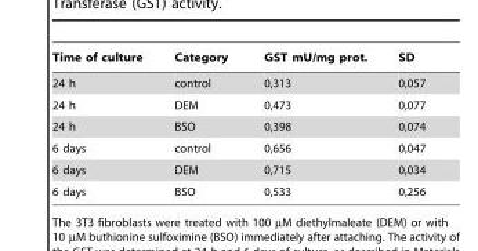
<table><thead><tr><td>Time of culture</td><td>Category</td><td>GST mU/mg prot.</td><td>SD</td></tr></thead><tbody><tr><td>24 h</td><td>control</td><td>0,313</td><td>0,057</td></tr><tr><td>24 h</td><td>DEM</td><td>0,473</td><td>0,077</td></tr><tr><td>24 h</td><td>BSO</td><td>0,398</td><td>0,074</td></tr><tr><td>6 days</td><td>control</td><td>0,656</td><td>0,047</td></tr><tr><td>6 days</td><td>DEM</td><td>0,715</td><td>0,034</td></tr><tr><td>6 days</td><td>BSO</td><td>0,533</td><td>0,256</td></tr></tbody></table>